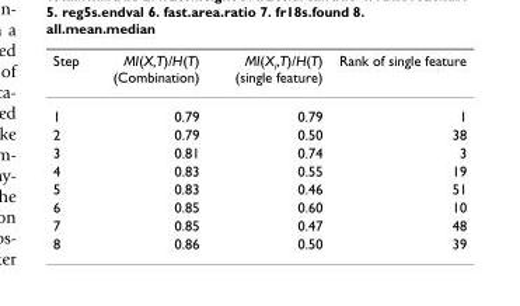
<table><thead><tr><td>Step</td><td>MI(X,T)/H(T) (Combination)</td><td>MI(Xi,T)/H(T) (single feature)</td><td>Rank of single feature</td></tr></thead><tbody><tr><td>1</td><td>0.79</td><td>0.79</td><td>1</td></tr><tr><td>2</td><td>0.79</td><td>0.50</td><td>38</td></tr><tr><td>3</td><td>0.81</td><td>0.74</td><td>3</td></tr><tr><td>4</td><td>0.83</td><td>0.55</td><td>19</td></tr><tr><td>5</td><td>0.83</td><td>0.46</td><td>51</td></tr><tr><td>6</td><td>0.85</td><td>0.60</td><td>10</td></tr><tr><td>7</td><td>0.85</td><td>0.47</td><td>48</td></tr><tr><td>8</td><td>0.86</td><td>0.50</td><td>39</td></tr></tbody></table>